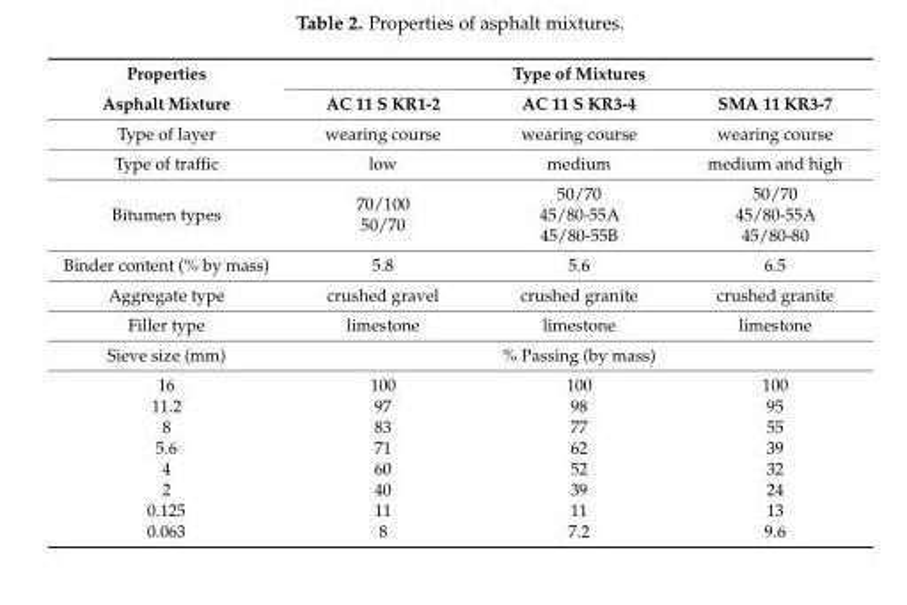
<table><thead><tr><td rowspan="2">Properties Asphalt Mixture</td><td colspan="3">Type of Mixtures</td></tr><tr><td>AC 11 S KR1-2</td><td>AC 11 S KR3-4</td><td>SMA 11 KR3-7</td></tr></thead><tbody><tr><td>Type of layer</td><td>wearing course</td><td>wearing course</td><td>wearing course</td></tr><tr><td>Type of traffic</td><td>low</td><td>medium</td><td>medium and high</td></tr><tr><td>Bitumen types</td><td>70/100 50/70</td><td>50/70 45/80-55A 45/80-55B</td><td>50/70 45/80-55A 45/80-80</td></tr><tr><td>Binder content (% by mass)</td><td>5.8</td><td>5.6</td><td>6.5</td></tr><tr><td>Aggregate type</td><td>crushed gravel</td><td>crushed granite</td><td>crushed granite</td></tr><tr><td>Filler type</td><td>limestone</td><td>limestone</td><td>limestone</td></tr><tr><td>Sieve size (mm)</td><td colspan="3">% Passing (by mass)</td></tr><tr><td>16</td><td>100</td><td>100</td><td>100</td></tr><tr><td>11.2</td><td>97</td><td>98</td><td>95</td></tr><tr><td>8</td><td>83</td><td>77</td><td>55</td></tr><tr><td>5.6</td><td>71</td><td>62</td><td>39</td></tr><tr><td>4</td><td>60</td><td>52</td><td>32</td></tr><tr><td>2</td><td>40</td><td>39</td><td>24</td></tr><tr><td>0.125</td><td>11</td><td>11</td><td>13</td></tr><tr><td>0.063</td><td>8</td><td>7.2</td><td>9.6</td></tr></tbody></table>